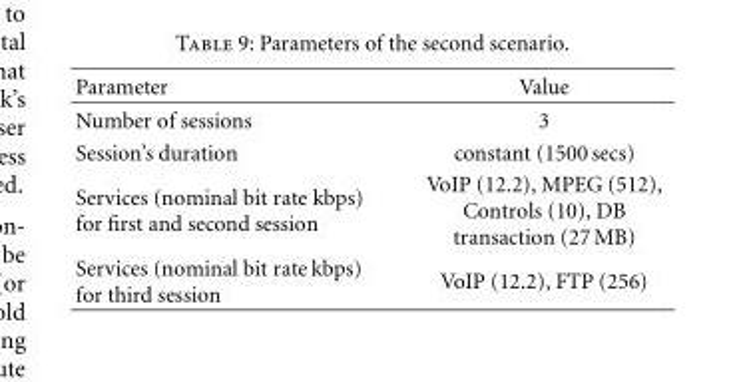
<table><thead><tr><td>Parameter</td><td>Value</td></tr></thead><tbody><tr><td>Number of sessions</td><td>3</td></tr><tr><td>Session’s duration</td><td>constant (1500 secs)</td></tr><tr><td>Services (nominal bit rate kbps) for first and second session</td><td>VoIP (12.2), MPEG (512), Controls (10), DB transaction (27 MB)</td></tr><tr><td>Services (nominal bit rate kbps) for third session</td><td>VoIP (12.2), FTP (256)</td></tr></tbody></table>